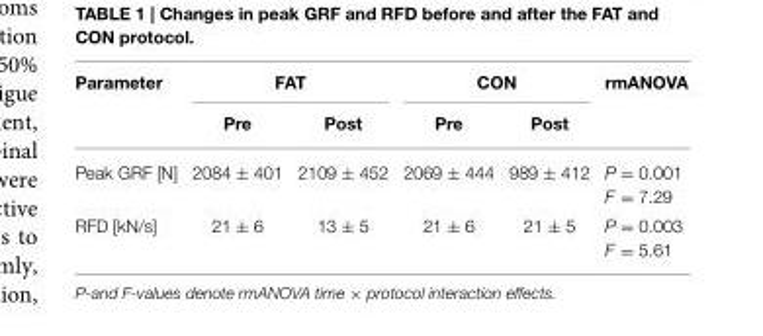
<table><thead><tr><td rowspan="2">Parameter</td><td colspan="2">FAT</td><td colspan="2">CON</td><td rowspan="2">rmANOVA</td></tr><tr><td>Pre</td><td>Post</td><td>Pre</td><td>Post</td></tr></thead><tbody><tr><td>Peak GRF [N]</td><td>2084 ± 401</td><td>2109 ± 452</td><td>2069 ± 444</td><td>989 ± 412</td><td>P = 0.001 F = 7.29</td></tr><tr><td>RFD [kN/s]</td><td>21 ± 6</td><td>13 ± 5</td><td>21 ± 6</td><td>21 ± 5</td><td>P = 0.003 F = 5.61</td></tr></tbody></table>